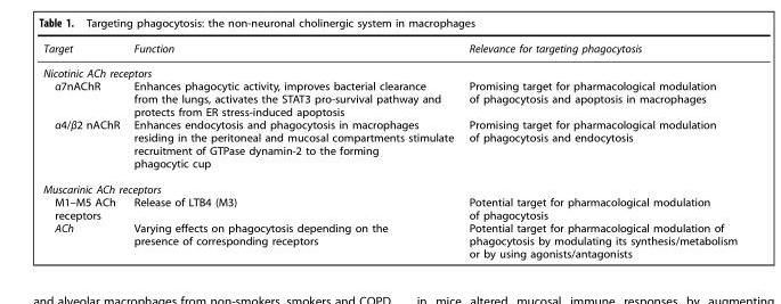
<table><thead><tr><td>Target</td><td>Function</td><td>Relevance for targeting phagocytosis</td></tr></thead><tbody><tr><td colspan="3">Nicotinic ACh receptors</td></tr><tr><td>α7nAChR</td><td>Enhances phagocytic activity, improves bacterial clearance from the lungs, activates the STAT3 pro-survival pathway and protects from ER stress-induced apoptosis</td><td>Promising target for pharmacological modulation of phagocytosis and apoptosis in macrophages</td></tr><tr><td>α4/β2 nAChR</td><td>Enhances endocytosis and phagocytosis in macrophages residing in the peritoneal and mucosal compartments stimulate recruitment of GTPase dynamin-2 to the forming phagocytic cup</td><td>Promising target for pharmacological modulation of phagocytosis and endocytosis</td></tr><tr><td colspan="3">Muscarinic ACh receptors</td></tr><tr><td>M1–M5 ACh receptors</td><td>Release of LTB4 (M3)</td><td>Potential target for pharmacological modulation of phagocytosis</td></tr><tr><td>ACh</td><td>Varying effects on phagocytosis depending on the presence of corresponding receptors</td><td>Potential target for pharmacological modulation of phagocytosis by modulating its synthesis/metabolism or by using agonists/antagonists</td></tr></tbody></table>